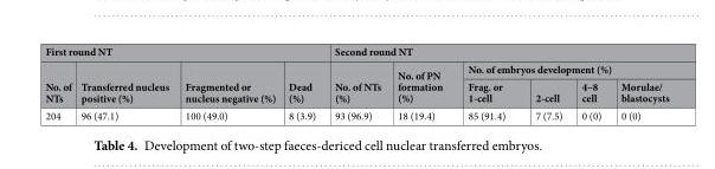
<table><thead><tr><td colspan="4">First round NT</td><td colspan="6">Second round NT</td></tr><tr><td rowspan="2">No. of NTs</td><td rowspan="2">Transferred nucleus positive (%)</td><td rowspan="2">Fragmented or nucleus negative (%)</td><td rowspan="2">Dead (%)</td><td rowspan="2">No. of NTs (%)</td><td rowspan="2">No. of PN formation (%)</td><td colspan="4">No. of embryos development (%)</td></tr><tr><td>Frag. or 1-cell</td><td>2-cell</td><td>4–8 cell</td><td>Morulae/ blastocysts</td></tr></thead><tbody><tr><td>204</td><td>96 (47.1)</td><td>100 (49.0)</td><td>8 (3.9)</td><td>93 (96.9)</td><td>18 (19.4)</td><td>85 (91.4)</td><td>7 (7.5)</td><td>0 (0)</td><td>0 (0)</td></tr></tbody></table>